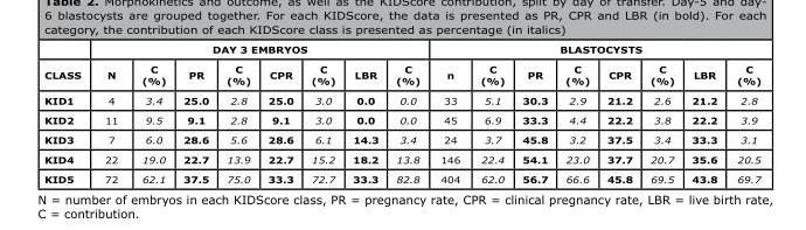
<table><thead><tr><td rowspan="2">CLASS</td><td colspan="8">DAY 3 EMBRYOS</td><td colspan="8">BLASTOCYSTS</td></tr><tr><td>N</td><td>C (%)</td><td>PR</td><td>C (%)</td><td>CPR</td><td>C (%)</td><td>LBR</td><td>C (%)</td><td>n</td><td>C (%)</td><td>PR</td><td>C (%)</td><td>CPR</td><td>C (%)</td><td>LBR</td><td>C (%)</td></tr></thead><tbody><tr><td>KID1</td><td>4</td><td>3.4</td><td>25.0</td><td>2.8</td><td>25.0</td><td>3.0</td><td>0.0</td><td>0.0</td><td>33</td><td>5.1</td><td>30.3</td><td>2.9</td><td>21.2</td><td>2.6</td><td>21.2</td><td>2.8</td></tr><tr><td>KID2</td><td>11</td><td>9.5</td><td>9.1</td><td>2.8</td><td>9.1</td><td>3.0</td><td>0.0</td><td>0.0</td><td>45</td><td>6.9</td><td>33.3</td><td>4.4</td><td>22.2</td><td>3.8</td><td>22.2</td><td>3.9</td></tr><tr><td>KID3</td><td>7</td><td>6.0</td><td>28.6</td><td>5.6</td><td>28.6</td><td>6.1</td><td>14.3</td><td>3.4</td><td>24</td><td>3.7</td><td>45.8</td><td>3.2</td><td>37.5</td><td>3.4</td><td>33.3</td><td>3.1</td></tr><tr><td>KID4</td><td>22</td><td>19.0</td><td>22.7</td><td>13.9</td><td>22.7</td><td>15.2</td><td>18.2</td><td>13.8</td><td>146</td><td>22.4</td><td>54.1</td><td>23.0</td><td>37.7</td><td>20.7</td><td>35.6</td><td>20.5</td></tr><tr><td>KID5</td><td>72</td><td>62.1</td><td>37.5</td><td>75.0</td><td>33.3</td><td>72.7</td><td>33.3</td><td>82.8</td><td>404</td><td>62.0</td><td>56.7</td><td>66.6</td><td>45.8</td><td>69.5</td><td>43.8</td><td>69.7</td></tr></tbody></table>